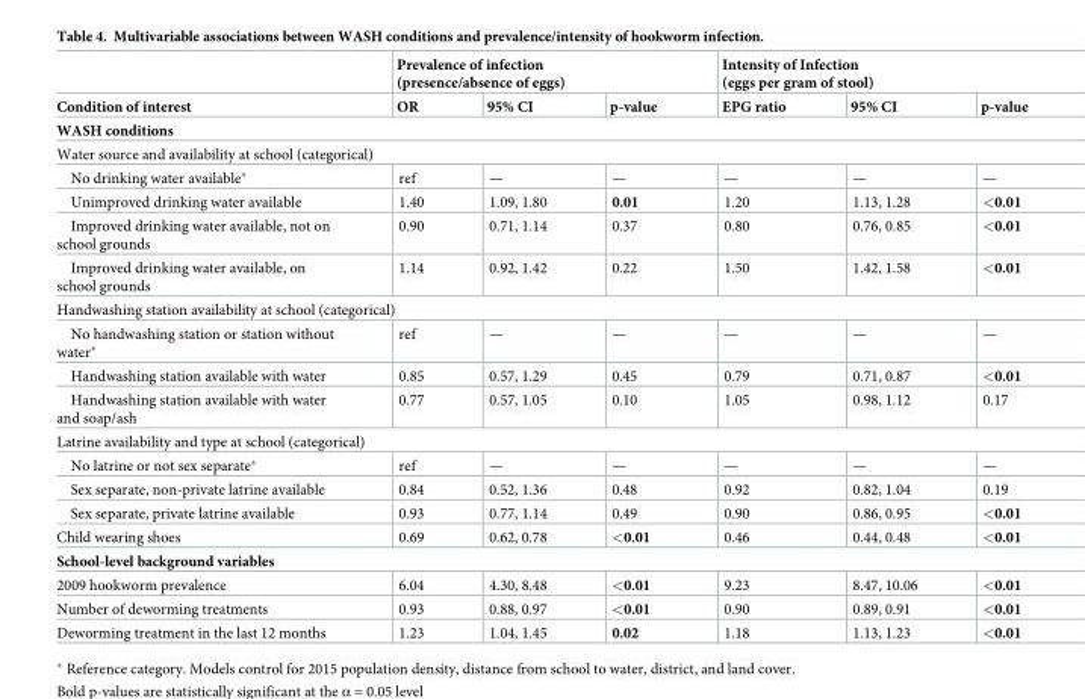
<table><thead><tr><td rowspan="2">Condition of interest</td><td colspan="3">Prevalence of infection (presence/absence of eggs)</td><td colspan="3">Intensity of Infection (eggs per gram of stool)</td></tr><tr><td>OR</td><td>95% CI</td><td>p-value</td><td>EPG ratio</td><td>95% CI</td><td>p-value</td></tr></thead><tbody><tr><td colspan="7">WASH conditions</td></tr><tr><td colspan="7">Water source and availability at school (categorical)</td></tr><tr><td>No drinking water available*</td><td>ref</td><td>—</td><td>—</td><td>—</td><td>—</td><td>—</td></tr><tr><td>Unimproved drinking water available</td><td>1.40</td><td>1.09, 1.80</td><td>0.01</td><td>1.20</td><td>1.13, 1.28</td><td>&lt;0.01</td></tr><tr><td>Improved drinking water available, not on school grounds</td><td>0.90</td><td>0.71, 1.14</td><td>0.37</td><td>0.80</td><td>0.76, 0.85</td><td>&lt;0.01</td></tr><tr><td>Improved drinking water available, on school grounds</td><td>1.14</td><td>0.92, 1.42</td><td>0.22</td><td>1.50</td><td>1.42, 1.58</td><td>&lt;0.01</td></tr><tr><td colspan="7">Handwashing station availability at school (categorical)</td></tr><tr><td>No handwashing station or station without water*</td><td>ref</td><td>—</td><td>—</td><td>—</td><td>—</td><td>—</td></tr><tr><td>Handwashing station available with water</td><td>0.85</td><td>0.57, 1.29</td><td>0.45</td><td>0.79</td><td>0.71, 0.87</td><td>&lt;0.01</td></tr><tr><td>Handwashing station available with water and soap/ash</td><td>0.77</td><td>0.57, 1.05</td><td>0.10</td><td>1.05</td><td>0.98, 1.12</td><td>0.17</td></tr><tr><td colspan="7">Latrine availability and type at school (categorical)</td></tr><tr><td>No latrine or not sex separate*</td><td>ref</td><td>—</td><td>—</td><td>—</td><td>—</td><td>—</td></tr><tr><td>Sex separate, non-private latrine available</td><td>0.84</td><td>0.52, 1.36</td><td>0.48</td><td>0.92</td><td>0.82, 1.04</td><td>0.19</td></tr><tr><td>Sex separate, private latrine available</td><td>0.93</td><td>0.77, 1.14</td><td>0.49</td><td>0.90</td><td>0.86, 0.95</td><td>&lt;0.01</td></tr><tr><td>Child wearing shoes</td><td>0.69</td><td>0.62, 0.78</td><td>&lt;0.01</td><td>0.46</td><td>0.44, 0.48</td><td>&lt;0.01</td></tr><tr><td colspan="7">School-level background variables</td></tr><tr><td>2009 hookworm prevalence</td><td>6.04</td><td>4.30, 8.48</td><td>&lt;0.01</td><td>9.23</td><td>8.47, 10.06</td><td>&lt;0.01</td></tr><tr><td>Number of deworming treatments</td><td>0.93</td><td>0.88, 0.97</td><td>&lt;0.01</td><td>0.90</td><td>0.89, 0.91</td><td>&lt;0.01</td></tr><tr><td>Deworming treatment in the last 12 months</td><td>1.23</td><td>1.04, 1.45</td><td>0.02</td><td>1.18</td><td>1.13, 1.23</td><td>&lt;0.01</td></tr></tbody></table>